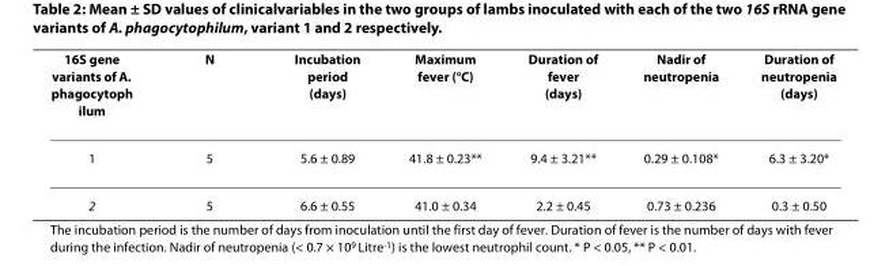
<table><thead><tr><td>16S gene variants of A. phagocytoph ilum</td><td>N</td><td>Incubation period (days)</td><td>Maximum fever (°C)</td><td>Duration of fever (days)</td><td>Nadir of neutropenia</td><td>Duration of neutropenia (days)</td></tr></thead><tbody><tr><td>1</td><td>5</td><td>5.6 ± 0.89</td><td>41.8 ± 0.23**</td><td>9.4 ± 3.21**</td><td>0.29 ± 0.108*</td><td>6.3 ± 3.20*</td></tr><tr><td>2</td><td>5</td><td>6.6 ± 0.55</td><td>41.0 ± 0.34</td><td>2.2 ± 0.45</td><td>0.73 ± 0.236</td><td>0.3 ± 0.50</td></tr></tbody></table>